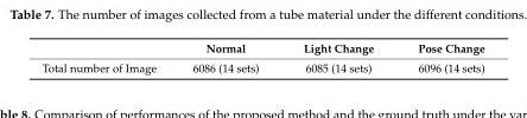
<table><thead><tr><td></td><td>Normal</td><td>Light Change</td><td>Pose Change</td></tr></thead><tbody><tr><td>Total number of Image</td><td>6086 (14 sets)</td><td>6085 (14 sets)</td><td>6096 (14 sets)</td></tr></tbody></table>